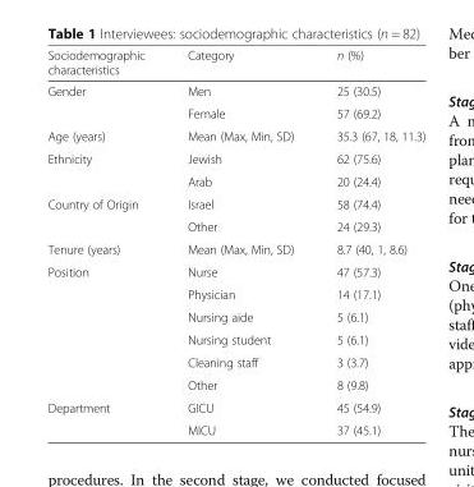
<table><thead><tr><td>Sociodemographic characteristics</td><td>Category</td><td>n (%)</td></tr></thead><tbody><tr><td rowspan="2">Gender</td><td>Men</td><td>25 (30.5)</td></tr><tr><td>Female</td><td>57 (69.2)</td></tr><tr><td>Age (years)</td><td>Mean (Max, Min, SD)</td><td>35.3 (67, 18, 11.3)</td></tr><tr><td rowspan="2">Ethnicity</td><td>Jewish</td><td>62 (75.6)</td></tr><tr><td>Arab</td><td>20 (24.4)</td></tr><tr><td rowspan="2">Country of Origin</td><td>Israel</td><td>58 (74.4)</td></tr><tr><td>Other</td><td>24 (29.3)</td></tr><tr><td>Tenure (years)</td><td>Mean (Max, Min, SD)</td><td>8.7 (40, 1, 8.6)</td></tr><tr><td rowspan="6">Position</td><td>Nurse</td><td>47 (57.3)</td></tr><tr><td>Physician</td><td>14 (17.1)</td></tr><tr><td>Nursing aide</td><td>5 (6.1)</td></tr><tr><td>Nursing student</td><td>5 (6.1)</td></tr><tr><td>Cleaning staff</td><td>3 (3.7)</td></tr><tr><td>Other</td><td>8 (9.8)</td></tr><tr><td rowspan="2">Department</td><td>GICU</td><td>45 (54.9)</td></tr><tr><td>MICU</td><td>37 (45.1)</td></tr></tbody></table>